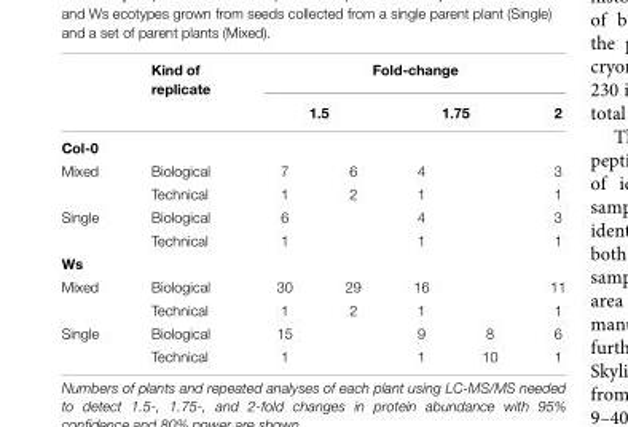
<table><thead><tr><td rowspan="2"></td><td rowspan="2">Kind of replicate</td><td colspan="5">Fold-change</td></tr><tr><td colspan="2">1.5</td><td colspan="2">1.75</td><td>2</td></tr><tr><td colspan="7">Col-0</td></tr><tr><td>Mixed</td><td>Biological</td><td>7</td><td>6</td><td>4</td><td></td><td>3</td></tr></thead><tbody><tr><td></td><td>Technical</td><td>1</td><td>2</td><td>1</td><td></td><td>1</td></tr><tr><td rowspan="2">Single</td><td>Biological</td><td>6</td><td></td><td>4</td><td></td><td>3</td></tr><tr><td>Technical</td><td>1</td><td></td><td>1</td><td></td><td>1</td></tr><tr><td colspan="7">Ws</td></tr><tr><td rowspan="2">Mixed</td><td>Biological</td><td>30</td><td>29</td><td>16</td><td></td><td>11</td></tr><tr><td>Technical</td><td>1</td><td>2</td><td>1</td><td></td><td>1</td></tr><tr><td rowspan="2">Single</td><td>Biological</td><td>15</td><td></td><td>9</td><td>8</td><td>6</td></tr><tr><td>Technical</td><td>1</td><td></td><td>1</td><td>10</td><td>1</td></tr></tbody></table>